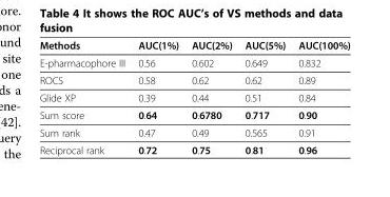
<table><thead><tr><td>Methods</td><td>AUC(1%)</td><td>AUC(2%)</td><td>AUC(5%)</td><td>AUC(100%)</td></tr></thead><tbody><tr><td>E-pharmacophore III</td><td>0.56</td><td>0.602</td><td>0.649</td><td>0.832</td></tr><tr><td>ROCS</td><td>0.58</td><td>0.62</td><td>0.62</td><td>0.89</td></tr><tr><td>Glide XP</td><td>0.39</td><td>0.44</td><td>0.51</td><td>0.84</td></tr><tr><td>Sum score</td><td>0.64</td><td>0.6780</td><td>0.717</td><td>0.90</td></tr><tr><td>Sum rank</td><td>0.47</td><td>0.49</td><td>0.565</td><td>0.91</td></tr><tr><td>Reciprocal rank</td><td>0.72</td><td>0.75</td><td>0.81</td><td>0.96</td></tr></tbody></table>